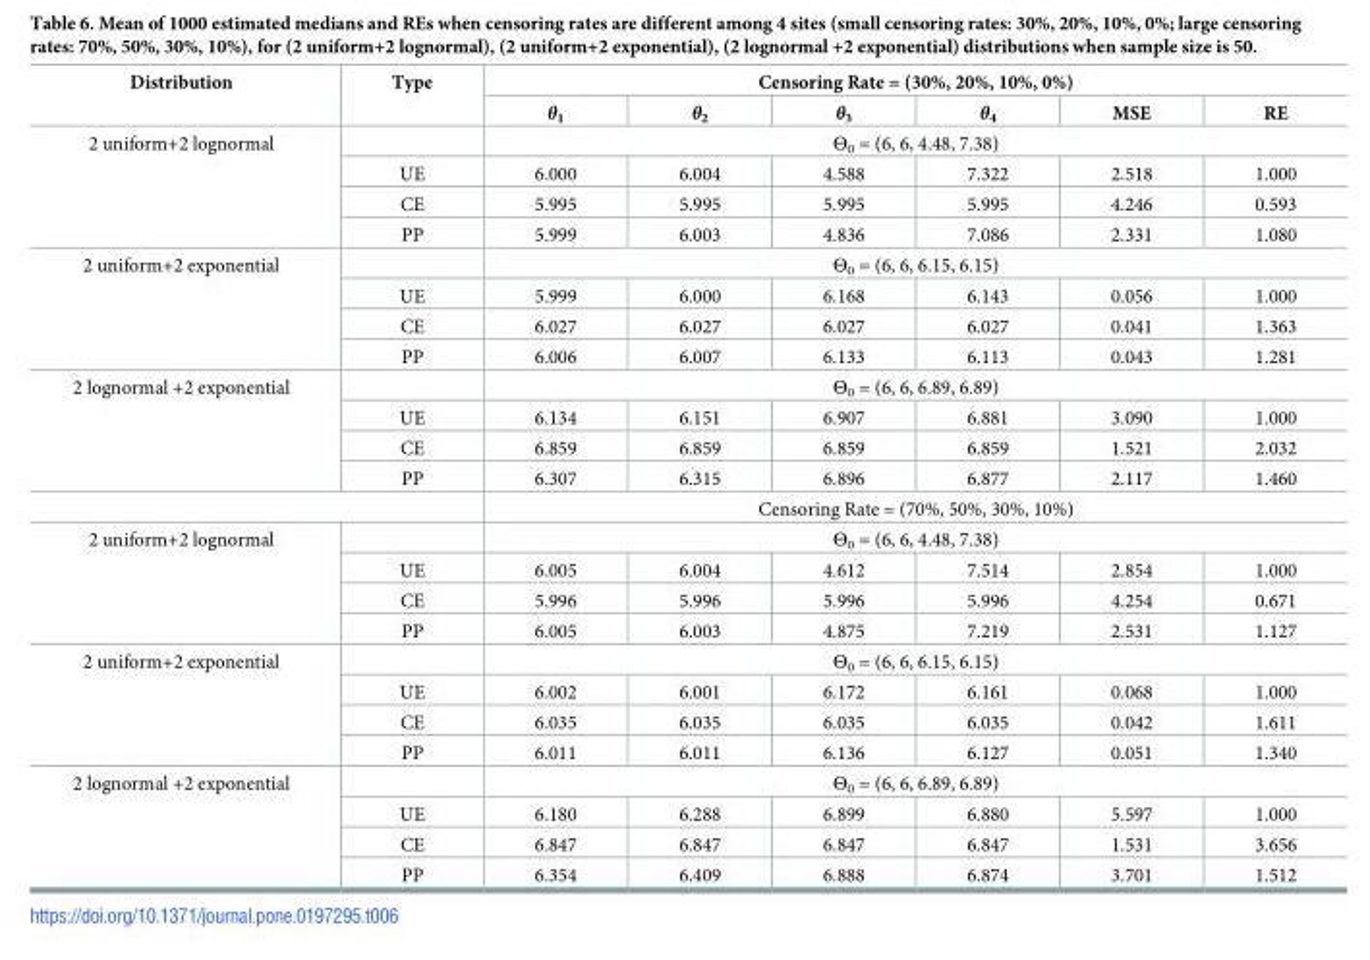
<table><thead><tr><td rowspan="2">Distribution</td><td rowspan="2">Type</td><td colspan="6">Censoring Rate = (30%, 20%, 10%, 0%)</td></tr><tr><td>θ<sub>1</sub></td><td>θ<sub>2</sub></td><td>θ<sub>3</sub></td><td>θ<sub>4</sub></td><td>MSE</td><td>RE</td></tr></thead><tbody><tr><td rowspan="4">2 uniform+2 lognormal</td><td></td><td colspan="6">Θ<sub>0</sub> = (6, 6, 4.48, 7.38)</td></tr><tr><td>UE</td><td>6.000</td><td>6.004</td><td>4.588</td><td>7.322</td><td>2.518</td><td>1.000</td></tr><tr><td>CE</td><td>5.995</td><td>5.995</td><td>5.995</td><td>5.995</td><td>4.246</td><td>0.593</td></tr><tr><td>PP</td><td>5.999</td><td>6.003</td><td>4.836</td><td>7.086</td><td>2.331</td><td>1.080</td></tr><tr><td rowspan="4">2 uniform+2 exponential</td><td></td><td colspan="6">Θ<sub>0</sub> = (6, 6, 6.15, 6.15)</td></tr><tr><td>UE</td><td>5.999</td><td>6.000</td><td>6.168</td><td>6.143</td><td>0.056</td><td>1.000</td></tr><tr><td>CE</td><td>6.027</td><td>6.027</td><td>6.027</td><td>6.027</td><td>0.041</td><td>1.363</td></tr><tr><td>PP</td><td>6.006</td><td>6.007</td><td>6.133</td><td>6.113</td><td>0.043</td><td>1.281</td></tr><tr><td rowspan="4">2 lognormal +2 exponential</td><td></td><td colspan="6">Θ<sub>0</sub> = (6, 6, 6.89, 6.89)</td></tr><tr><td>UE</td><td>6.134</td><td>6.151</td><td>6.907</td><td>6.881</td><td>3.090</td><td>1.000</td></tr><tr><td>CE</td><td>6.859</td><td>6.859</td><td>6.859</td><td>6.859</td><td>1.521</td><td>2.032</td></tr><tr><td>PP</td><td>6.307</td><td>6.315</td><td>6.896</td><td>6.877</td><td>2.117</td><td>1.460</td></tr><tr><td colspan="2"></td><td colspan="6">Censoring Rate = (70%, 50%, 30%, 10%)</td></tr><tr><td rowspan="4">2 uniform+2 lognormal</td><td></td><td colspan="6">Θ<sub>0</sub> = (6, 6, 4.48, 7.38)</td></tr><tr><td>UE</td><td>6.005</td><td>6.004</td><td>4.612</td><td>7.514</td><td>2.854</td><td>1.000</td></tr><tr><td>CE</td><td>5.996</td><td>5.996</td><td>5.996</td><td>5.996</td><td>4.254</td><td>0.671</td></tr><tr><td>PP</td><td>6.005</td><td>6.003</td><td>4.875</td><td>7.219</td><td>2.531</td><td>1.127</td></tr><tr><td rowspan="4">2 uniform+2 exponential</td><td></td><td colspan="6">Θ<sub>0</sub> = (6, 6, 6.15, 6.15)</td></tr><tr><td>UE</td><td>6.002</td><td>6.001</td><td>6.172</td><td>6.161</td><td>0.068</td><td>1.000</td></tr><tr><td>CE</td><td>6.035</td><td>6.035</td><td>6.035</td><td>6.035</td><td>0.042</td><td>1.611</td></tr><tr><td>PP</td><td>6.011</td><td>6.011</td><td>6.136</td><td>6.127</td><td>0.051</td><td>1.340</td></tr><tr><td rowspan="4">2 lognormal +2 exponential</td><td></td><td colspan="6">Θ<sub>0</sub> = (6, 6, 6.89, 6.89)</td></tr><tr><td>UE</td><td>6.180</td><td>6.288</td><td>6.899</td><td>6.880</td><td>5.597</td><td>1.000</td></tr><tr><td>CE</td><td>6.847</td><td>6.847</td><td>6.847</td><td>6.847</td><td>1.531</td><td>3.656</td></tr><tr><td>PP</td><td>6.354</td><td>6.409</td><td>6.888</td><td>6.874</td><td>3.701</td><td>1.512</td></tr></tbody></table>